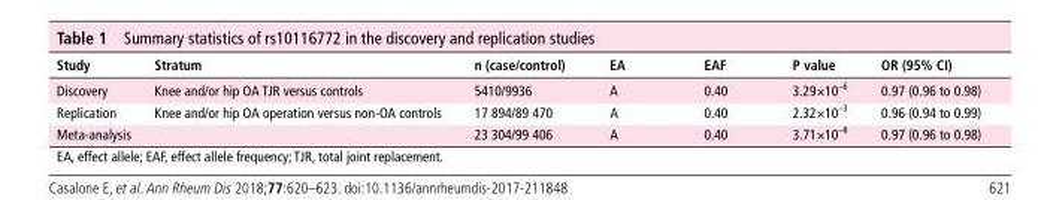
<table><thead><tr><td>study</td><td>stratum</td><td>n (case/control)</td><td>eA</td><td>eAF</td><td>P value</td><td>Or (95% cI)</td></tr></thead><tbody><tr><td>Discovery</td><td>Knee and/or hip OA TJR versus controls</td><td>5410/9936</td><td>A</td><td>0.40</td><td>3.29×10<sup>–6</sup></td><td>0.97 (0.96 to 0.98)</td></tr><tr><td>Replication</td><td>Knee and/or hip OA operation versus non-OA controls</td><td>17 894/89 470</td><td>A</td><td>0.40</td><td>2.32×10<sup>–3</sup></td><td>0.96 (0.94 to 0.99)</td></tr><tr><td>Meta-analysis</td><td></td><td>23 304/99 406</td><td>A</td><td>0.40</td><td>3.71×10<sup>–8</sup></td><td>0.97 (0.96 to 0.98)</td></tr></tbody></table>